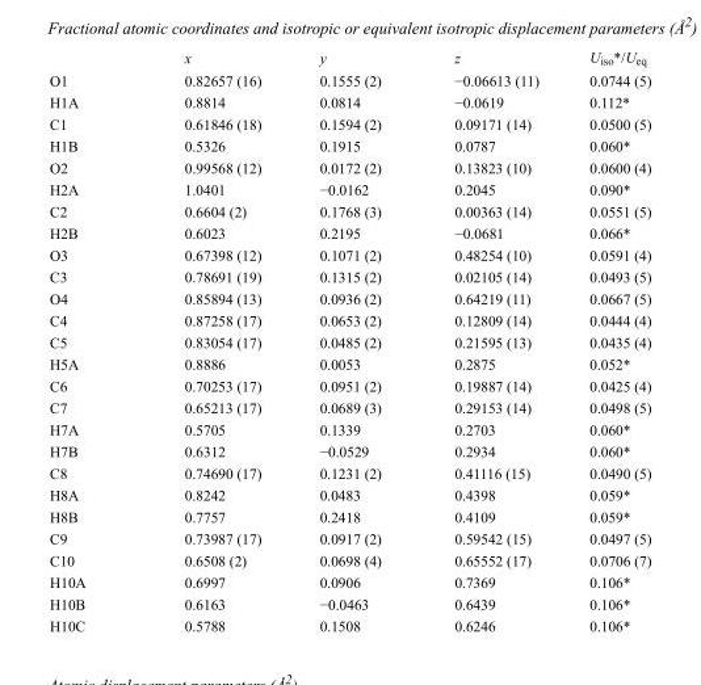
<table><thead><tr><td></td><td>x</td><td>y</td><td>z</td><td>U<sub>iso</sub>*/U<sub>eq</sub></td></tr></thead><tbody><tr><td>O1</td><td>0.82657 (16)</td><td>0.1555 (2)</td><td>−0.06613 (11)</td><td>0.0744 (5)</td></tr><tr><td>H1A</td><td>0.8814</td><td>0.0814</td><td>−0.0619</td><td>0.112*</td></tr><tr><td>C1</td><td>0.61846 (18)</td><td>0.1594 (2)</td><td>0.09171 (14)</td><td>0.0500 (5)</td></tr><tr><td>H1B</td><td>0.5326</td><td>0.1915</td><td>0.0787</td><td>0.060*</td></tr><tr><td>O2</td><td>0.99568 (12)</td><td>0.0172 (2)</td><td>0.13823 (10)</td><td>0.0600 (4)</td></tr><tr><td>H2A</td><td>1.0401</td><td>−0.0162</td><td>0.2045</td><td>0.090*</td></tr><tr><td>C2</td><td>0.6604 (2)</td><td>0.1768 (3)</td><td>0.00363 (14)</td><td>0.0551 (5)</td></tr><tr><td>H2B</td><td>0.6023</td><td>0.2195</td><td>−0.0681</td><td>0.066*</td></tr><tr><td>O3</td><td>0.67398 (12)</td><td>0.1071 (2)</td><td>0.48254 (10)</td><td>0.0591 (4)</td></tr><tr><td>C3</td><td>0.78691 (19)</td><td>0.1315 (2)</td><td>0.02105 (14)</td><td>0.0493 (5)</td></tr><tr><td>O4</td><td>0.85894 (13)</td><td>0.0936 (2)</td><td>0.64219 (11)</td><td>0.0667 (5)</td></tr><tr><td>C4</td><td>0.87258 (17)</td><td>0.0653 (2)</td><td>0.12809 (14)</td><td>0.0444 (4)</td></tr><tr><td>C5</td><td>0.83054 (17)</td><td>0.0485 (2)</td><td>0.21595 (13)</td><td>0.0435 (4)</td></tr><tr><td>H5A</td><td>0.8886</td><td>0.0053</td><td>0.2875</td><td>0.052*</td></tr><tr><td>C6</td><td>0.70253 (17)</td><td>0.0951 (2)</td><td>0.19887 (14)</td><td>0.0425 (4)</td></tr><tr><td>C7</td><td>0.65213 (17)</td><td>0.0689 (3)</td><td>0.29153 (14)</td><td>0.0498 (5)</td></tr><tr><td>H7A</td><td>0.5705</td><td>0.1339</td><td>0.2703</td><td>0.060*</td></tr><tr><td>H7B</td><td>0.6312</td><td>−0.0529</td><td>0.2934</td><td>0.060*</td></tr><tr><td>C8</td><td>0.74690 (17)</td><td>0.1231 (2)</td><td>0.41116 (15)</td><td>0.0490 (5)</td></tr><tr><td>H8A</td><td>0.8242</td><td>0.0483</td><td>0.4398</td><td>0.059*</td></tr><tr><td>H8B</td><td>0.7757</td><td>0.2418</td><td>0.4109</td><td>0.059*</td></tr><tr><td>C9</td><td>0.73987 (17)</td><td>0.0917 (2)</td><td>0.59542 (15)</td><td>0.0497 (5)</td></tr><tr><td>C10</td><td>0.6508 (2)</td><td>0.0698 (4)</td><td>0.65552 (17)</td><td>0.0706 (7)</td></tr><tr><td>H10A</td><td>0.6997</td><td>0.0906</td><td>0.7369</td><td>0.106*</td></tr><tr><td>H10B</td><td>0.6163</td><td>−0.0463</td><td>0.6439</td><td>0.106*</td></tr><tr><td>H10C</td><td>0.5788</td><td>0.1508</td><td>0.6246</td><td>0.106*</td></tr></tbody></table>